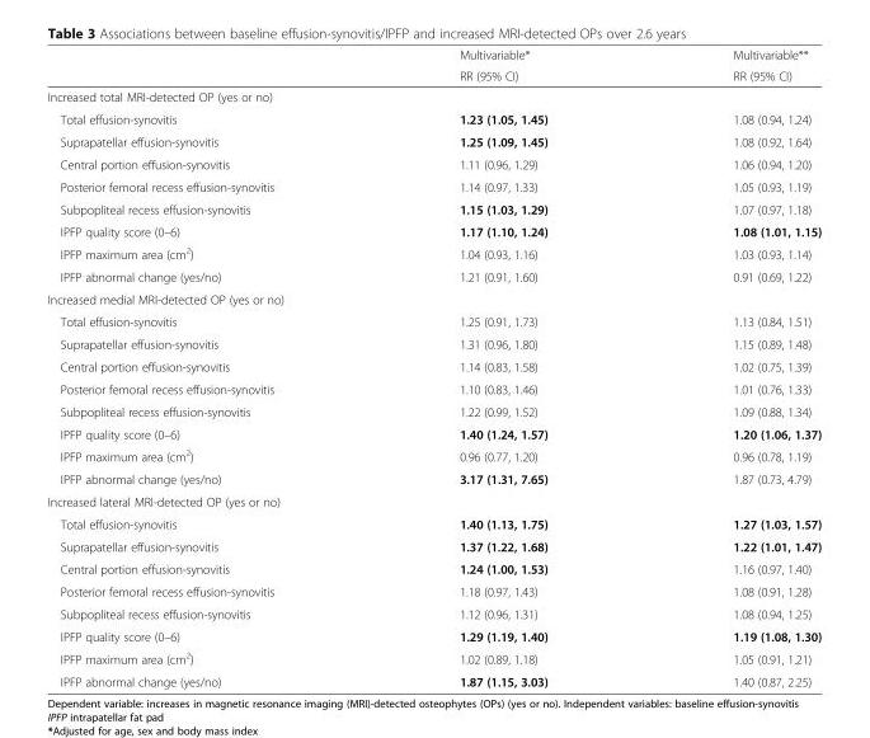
<table><thead><tr><td rowspan="2"></td><td rowspan="2">Multivariable* RR (95% CI)</td><td rowspan="2">Multivariable** RR (95% CI)</td></tr><tr></tr></thead><tbody><tr><td colspan="3">Increased total MRI-detected OP (yes or no)</td></tr><tr><td>Total effusion-synovitis</td><td>1.23 (1.05, 1.45)</td><td>1.08 (0.94, 1.24)</td></tr><tr><td>Suprapatellar effusion-synovitis</td><td>1.25 (1.09, 1.45)</td><td>1.08 (0.92, 1.64)</td></tr><tr><td>Central portion effusion-synovitis</td><td>1.11 (0.96, 1.29)</td><td>1.06 (0.94, 1.20)</td></tr><tr><td>Posterior femoral recess effusion-synovitis</td><td>1.14 (0.97, 1.33)</td><td>1.05 (0.93, 1.19)</td></tr><tr><td>Subpopliteal recess effusion-synovitis</td><td>1.15 (1.03, 1.29)</td><td>1.07 (0.97, 1.18)</td></tr><tr><td>IPFP quality score (0–6)</td><td>1.17 (1.10, 1.24)</td><td>1.08 (1.01, 1.15)</td></tr><tr><td>IPFP maximum area (cm<sup>2</sup>)</td><td>1.04 (0.93, 1.16)</td><td>1.03 (0.93, 1.14)</td></tr><tr><td>IPFP abnormal change (yes/no)</td><td>1.21 (0.91, 1.60)</td><td>0.91 (0.69, 1.22)</td></tr><tr><td colspan="3">Increased medial MRI-detected OP (yes or no)</td></tr><tr><td>Total effusion-synovitis</td><td>1.25 (0.91, 1.73)</td><td>1.13 (0.84, 1.51)</td></tr><tr><td>Suprapatellar effusion-synovitis</td><td>1.31 (0.96, 1.80)</td><td>1.15 (0.89, 1.48)</td></tr><tr><td>Central portion effusion-synovitis</td><td>1.14 (0.83, 1.58)</td><td>1.02 (0.75, 1.39)</td></tr><tr><td>Posterior femoral recess effusion-synovitis</td><td>1.10 (0.83, 1.46)</td><td>1.01 (0.76, 1.33)</td></tr><tr><td>Subpopliteal recess effusion-synovitis</td><td>1.22 (0.99, 1.52)</td><td>1.09 (0.88, 1.34)</td></tr><tr><td>IPFP quality score (0–6)</td><td>1.40 (1.24, 1.57)</td><td>1.20 (1.06, 1.37)</td></tr><tr><td>IPFP maximum area (cm<sup>2</sup>)</td><td>0.96 (0.77, 1.20)</td><td>0.96 (0.78, 1.19)</td></tr><tr><td>IPFP abnormal change (yes/no)</td><td>3.17 (1.31, 7.65)</td><td>1.87 (0.73, 4.79)</td></tr><tr><td colspan="3">Increased lateral MRI-detected OP (yes or no)</td></tr><tr><td>Total effusion-synovitis</td><td>1.40 (1.13, 1.75)</td><td>1.27 (1.03, 1.57)</td></tr><tr><td>Suprapatellar effusion-synovitis</td><td>1.37 (1.22, 1.68)</td><td>1.22 (1.01, 1.47)</td></tr><tr><td>Central portion effusion-synovitis</td><td>1.24 (1.00, 1.53)</td><td>1.16 (0.97, 1.40)</td></tr><tr><td>Posterior femoral recess effusion-synovitis</td><td>1.18 (0.97, 1.43)</td><td>1.08 (0.91, 1.28)</td></tr><tr><td>Subpopliteal recess effusion-synovitis</td><td>1.12 (0.96, 1.31)</td><td>1.08 (0.94, 1.25)</td></tr><tr><td>IPFP quality score (0–6)</td><td>1.29 (1.19, 1.40)</td><td>1.19 (1.08, 1.30)</td></tr><tr><td>IPFP maximum area (cm<sup>2</sup>)</td><td>1.02 (0.89, 1.18)</td><td>1.05 (0.91, 1.21)</td></tr><tr><td>IPFP abnormal change (yes/no)</td><td>1.87 (1.15, 3.03)</td><td>1.40 (0.87, 2.25)</td></tr></tbody></table>